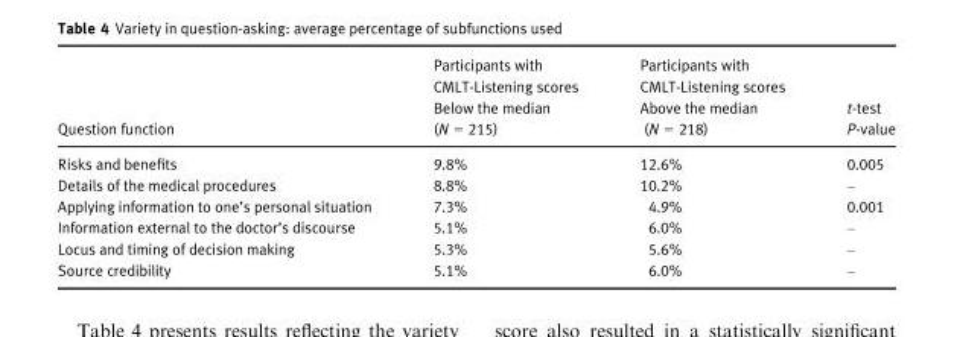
<table><thead><tr><td>Question function</td><td>Participants with CMLT-Listening scores Below the median (N = 215)</td><td>Participants with CMLT-Listening scores Above the median (N = 218)</td><td>t-test P-value</td></tr></thead><tbody><tr><td>Risks and benefits</td><td>9.8%</td><td>12.6%</td><td>0.005</td></tr><tr><td>Details of the medical procedures</td><td>8.8%</td><td>10.2%</td><td>–</td></tr><tr><td>Applying information to one’s personal situation</td><td>7.3%</td><td>4.9%</td><td>0.001</td></tr><tr><td>Information external to the doctor’s discourse</td><td>5.1%</td><td>6.0%</td><td>–</td></tr><tr><td>Locus and timing of decision making</td><td>5.3%</td><td>5.6%</td><td>–</td></tr><tr><td>Source credibility</td><td>5.1%</td><td>6.0%</td><td>–</td></tr></tbody></table>